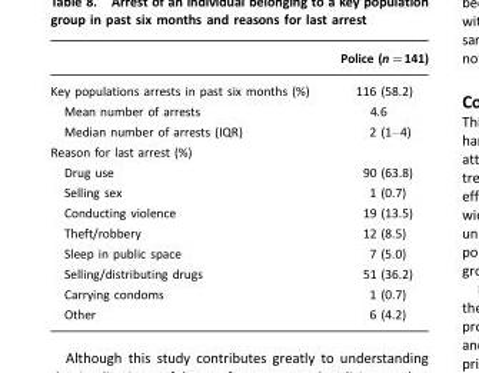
<table><thead><tr><td></td><td>Police (n=141)</td></tr></thead><tbody><tr><td>Key populations arrests in past six months (%)</td><td>116 (58.2)</td></tr><tr><td>Mean number of arrests</td><td>4.6</td></tr><tr><td>Median number of arrests (IQR)</td><td>2 (1–4)</td></tr><tr><td colspan="2">Reason for last arrest (%)</td></tr><tr><td>Drug use</td><td>90 (63.8)</td></tr><tr><td>Selling sex</td><td>1 (0.7)</td></tr><tr><td>Conducting violence</td><td>19 (13.5)</td></tr><tr><td>Theft/robbery</td><td>12 (8.5)</td></tr><tr><td>Sleep in public space</td><td>7 (5.0)</td></tr><tr><td>Selling/distributing drugs</td><td>51 (36.2)</td></tr><tr><td>Carrying condoms</td><td>1 (0.7)</td></tr><tr><td>Other</td><td>6 (4.2)</td></tr></tbody></table>